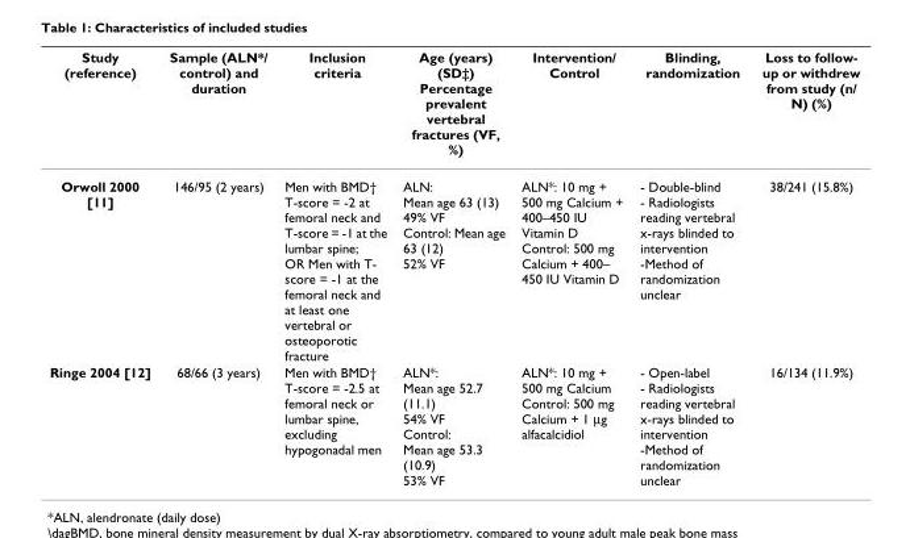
<table><thead><tr><td>Study (reference)</td><td>Sample (ALN*/ control) and duration</td><td>Inclusion criteria</td><td>Age (years) (SD‡) Percentage prevalent vertebral fractures (VF, %)</td><td>Intervention/ Control</td><td>Blinding, randomization</td><td>Loss to follow- up or withdrew from study (n/ N) (%)</td></tr></thead><tbody><tr><td>Orwoll 2000 [11]</td><td>146/95 (2 years)</td><td>Men with BMD† T-score = -2 at femoral neck and T-score = -1 at the lumbar spine; OR Men with T- score = -1 at the femoral neck and at least one vertebral or osteoporotic fracture</td><td>ALN: Mean age 63 (13) 49% VF Control: Mean age 63 (12) 52% VF</td><td>ALN*: 10 mg + 500 mg Calcium + 400–450 IU Vitamin D Control: 500 mg Calcium + 400– 450 IU Vitamin D</td><td>- Double-blind - Radiologists reading vertebral x-rays blinded to intervention -Method of randomization unclear</td><td>38/241 (15.8%)</td></tr><tr><td>Ringe 2004 [12]</td><td>68/66 (3 years)</td><td>Men with BMD† T-score = -2.5 at femoral neck or lumbar spine, excluding hypogonadal men</td><td>ALN*: Mean age 52.7 (11.1) 54% VF Control: Mean age 53.3 (10.9) 53% VF</td><td>ALN*: 10 mg + 500 mg Calcium Control: 500 mg Calcium + 1 µg alfacalcidiol</td><td>- Open-label - Radiologists reading vertebral x-rays blinded to intervention -Method of randomization unclear</td><td>16/134 (11.9%)</td></tr></tbody></table>